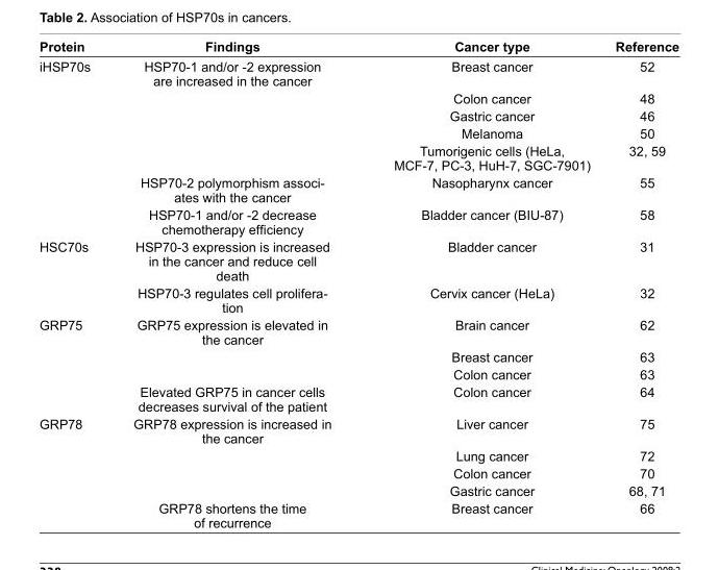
<table><thead><tr><td>Protein</td><td>Findings</td><td>Cancer type</td><td>Reference</td></tr></thead><tbody><tr><td rowspan="7">iHSP70s</td><td>HSP70-1 and/or -2 expression are increased in the cancer</td><td>Breast cancer</td><td>52</td></tr><tr><td></td><td>Colon cancer</td><td>48</td></tr><tr><td></td><td>Gastric cancer</td><td>46</td></tr><tr><td></td><td>Melanoma</td><td>50</td></tr><tr><td></td><td>Tumorigenic cells (HeLa, MCF-7, PC-3, HuH-7, SGC-7901)</td><td>32, 59</td></tr><tr><td>HSP70-2 polymorphism associ- ates with the cancer</td><td>Nasopharynx cancer</td><td>55</td></tr><tr><td>HSP70-1 and/or -2 decrease chemotherapy effi ciency</td><td>Bladder cancer (BIU-87)</td><td>58</td></tr><tr><td rowspan="2">HSC70s</td><td>HSP70-3 expression is increased in the cancer and reduce cell death</td><td>Bladder cancer</td><td>31</td></tr><tr><td>HSP70-3 regulates cell prolifera- tion</td><td>Cervix cancer (HeLa)</td><td>32</td></tr><tr><td rowspan="4">GRP75</td><td>GRP75 expression is elevated in the cancer</td><td>Brain cancer</td><td>62</td></tr><tr><td></td><td>Breast cancer</td><td>63</td></tr><tr><td></td><td>Colon cancer</td><td>63</td></tr><tr><td>Elevated GRP75 in cancer cells decreases survival of the patient</td><td>Colon cancer</td><td>64</td></tr><tr><td rowspan="5">GRP78</td><td>GRP78 expression is increased in the cancer</td><td>Liver cancer</td><td>75</td></tr><tr><td></td><td>Lung cancer</td><td>72</td></tr><tr><td></td><td>Colon cancer</td><td>70</td></tr><tr><td></td><td>Gastric cancer</td><td>68, 71</td></tr><tr><td>GRP78 shortens the time of recurrence</td><td>Breast cancer</td><td>66</td></tr></tbody></table>